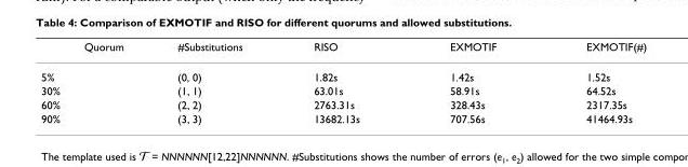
<table><thead><tr><td>Quorum</td><td>#Substitutions</td><td>RISO</td><td>EXMOTIF</td><td>EXMOTIF(#)</td></tr></thead><tbody><tr><td>5%</td><td>(0, 0)</td><td>1.82s</td><td>1.42s</td><td>1.52s</td></tr><tr><td>30%</td><td>(1, 1)</td><td>63.01s</td><td>58.91s</td><td>64.52s</td></tr><tr><td>60%</td><td>(2, 2)</td><td>2763.31s</td><td>328.43s</td><td>2317.35s</td></tr><tr><td>90%</td><td>(3, 3)</td><td>13682.13s</td><td>707.56s</td><td>41464.93s</td></tr></tbody></table>